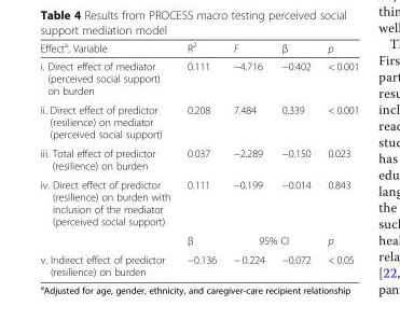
<table><thead><tr><td>Effect<sup>a</sup>, Variable</td><td>R<sup>2</sup></td><td>F</td><td>β</td><td>p</td></tr></thead><tbody><tr><td>i. Direct effect of mediator (perceived social support) on burden</td><td>0.111</td><td>−4.716</td><td>−0.402</td><td>&lt; 0.001</td></tr><tr><td>ii. Direct effect of predictor (resilience) on mediator (perceived social support)</td><td>0.208</td><td>7.484</td><td>0.339</td><td>&lt; 0.001</td></tr><tr><td>iii. Total effect of predictor (resilience) on burden</td><td>0.037</td><td>−2.289</td><td>−0.150</td><td>0.023</td></tr><tr><td rowspan="2">iv. Direct effect of predictor (resilience) on burden with inclusion of the mediator (perceived social support)</td><td>0.111</td><td>−0.199</td><td>−0.014</td><td>0.843</td></tr><tr><td>β</td><td colspan="2">95% CI</td><td>p</td></tr><tr><td>v. Indirect effect of predictor (resilience) on burden</td><td>−0.136</td><td>− 0.224</td><td>−0.072</td><td>&lt; 0.05</td></tr></tbody></table>